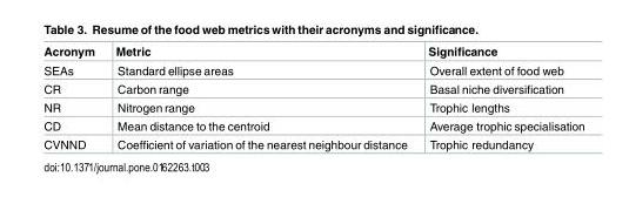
<table><thead><tr><td>Acronym</td><td>Metric</td><td>Significance</td></tr></thead><tbody><tr><td>SEAs</td><td>Standard ellipse areas</td><td>Overall extent of food web</td></tr><tr><td>CR</td><td>Carbon range</td><td>Basal niche diversification</td></tr><tr><td>NR</td><td>Nitrogen range</td><td>Trophic lengths</td></tr><tr><td>CD</td><td>Mean distance to the centroid</td><td>Average trophic specialisation</td></tr><tr><td>CVNND</td><td>Coefficient of variation of the nearest neighbour distance</td><td>Trophic redundancy</td></tr></tbody></table>